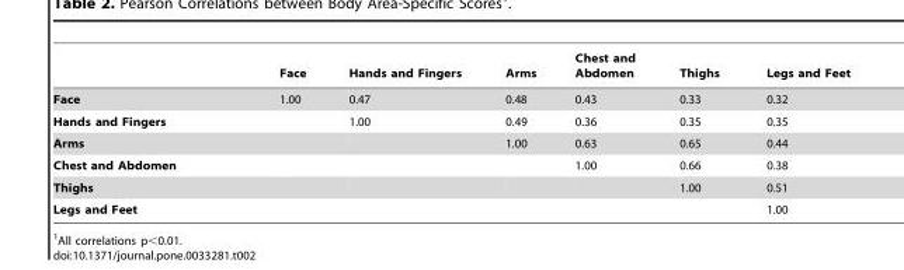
<table><thead><tr><td></td><td>Face</td><td>Hands and Fingers</td><td>Arms</td><td>Chest and Abdomen</td><td>Thighs</td><td>Legs and Feet</td></tr></thead><tbody><tr><td>Face</td><td>1.00</td><td>0.47</td><td>0.48</td><td>0.43</td><td>0.33</td><td>0.32</td></tr><tr><td>Hands and Fingers</td><td></td><td>1.00</td><td>0.49</td><td>0.36</td><td>0.35</td><td>0.35</td></tr><tr><td>Arms</td><td></td><td></td><td>1.00</td><td>0.63</td><td>0.65</td><td>0.44</td></tr><tr><td>Chest and Abdomen</td><td></td><td></td><td></td><td>1.00</td><td>0.66</td><td>0.38</td></tr><tr><td>Thighs</td><td></td><td></td><td></td><td></td><td>1.00</td><td>0.51</td></tr><tr><td>Legs and Feet</td><td></td><td></td><td></td><td></td><td></td><td>1.00</td></tr></tbody></table>